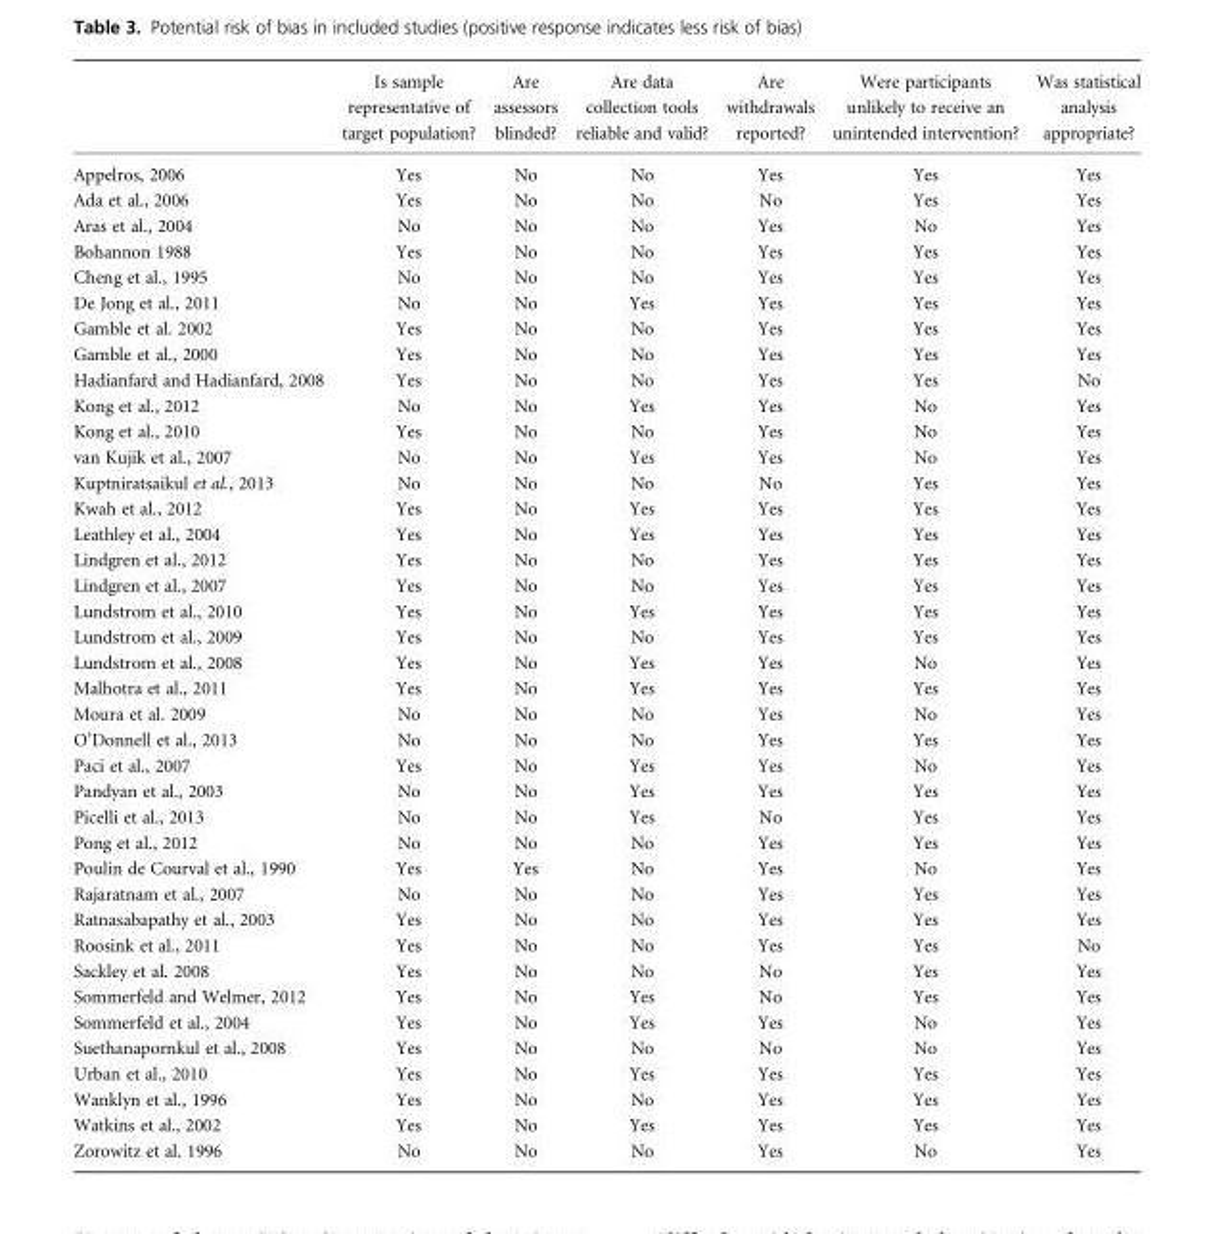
<table><thead><tr><td></td><td>Is sample representative of target population?</td><td>Are assessors blinded?</td><td>Are data collection tools reliable and valid?</td><td>Are withdrawals reported?</td><td>Were participants unlikely to receive an unintended intervention?</td><td>Was statistical analysis appropriate?</td></tr></thead><tbody><tr><td>Appelros, 2006</td><td>Yes</td><td>No</td><td>No</td><td>Yes</td><td>Yes</td><td>Yes</td></tr><tr><td>Ada et al., 2006</td><td>Yes</td><td>No</td><td>No</td><td>No</td><td>Yes</td><td>Yes</td></tr><tr><td>Aras et al., 2004</td><td>No</td><td>No</td><td>No</td><td>Yes</td><td>No</td><td>Yes</td></tr><tr><td>Bohannon 1988</td><td>Yes</td><td>No</td><td>No</td><td>Yes</td><td>Yes</td><td>Yes</td></tr><tr><td>Cheng et al., 1995</td><td>No</td><td>No</td><td>No</td><td>Yes</td><td>Yes</td><td>Yes</td></tr><tr><td>De Jong et al., 2011</td><td>No</td><td>No</td><td>Yes</td><td>Yes</td><td>Yes</td><td>Yes</td></tr><tr><td>Gamble et al. 2002</td><td>Yes</td><td>No</td><td>No</td><td>Yes</td><td>Yes</td><td>Yes</td></tr><tr><td>Gamble et al., 2000</td><td>Yes</td><td>No</td><td>No</td><td>Yes</td><td>Yes</td><td>Yes</td></tr><tr><td>Hadianfard and Hadianfard, 2008</td><td>Yes</td><td>No</td><td>No</td><td>Yes</td><td>Yes</td><td>No</td></tr><tr><td>Kong et al., 2012</td><td>No</td><td>No</td><td>Yes</td><td>Yes</td><td>No</td><td>Yes</td></tr><tr><td>Kong et al., 2010</td><td>Yes</td><td>No</td><td>No</td><td>Yes</td><td>No</td><td>Yes</td></tr><tr><td>van Kujik et al., 2007</td><td>No</td><td>No</td><td>Yes</td><td>Yes</td><td>No</td><td>Yes</td></tr><tr><td>Kuptniratsaikul et al., 2013</td><td>No</td><td>No</td><td>No</td><td>No</td><td>Yes</td><td>Yes</td></tr><tr><td>Kwah et al., 2012</td><td>Yes</td><td>No</td><td>Yes</td><td>Yes</td><td>Yes</td><td>Yes</td></tr><tr><td>Leathley et al., 2004</td><td>Yes</td><td>No</td><td>Yes</td><td>Yes</td><td>Yes</td><td>Yes</td></tr><tr><td>Lindgren et al., 2012</td><td>Yes</td><td>No</td><td>No</td><td>Yes</td><td>Yes</td><td>Yes</td></tr><tr><td>Lindgren et al., 2007</td><td>Yes</td><td>No</td><td>No</td><td>Yes</td><td>Yes</td><td>Yes</td></tr><tr><td>Lundstrom et al., 2010</td><td>Yes</td><td>No</td><td>Yes</td><td>Yes</td><td>Yes</td><td>Yes</td></tr><tr><td>Lundstrom et al., 2009</td><td>Yes</td><td>No</td><td>No</td><td>Yes</td><td>Yes</td><td>Yes</td></tr><tr><td>Lundstrom et al., 2008</td><td>Yes</td><td>No</td><td>Yes</td><td>Yes</td><td>No</td><td>Yes</td></tr><tr><td>Malhotra et al., 2011</td><td>Yes</td><td>No</td><td>Yes</td><td>Yes</td><td>Yes</td><td>Yes</td></tr><tr><td>Moura et al. 2009</td><td>No</td><td>No</td><td>No</td><td>Yes</td><td>No</td><td>Yes</td></tr><tr><td>O’Donnell et al., 2013</td><td>No</td><td>No</td><td>No</td><td>Yes</td><td>Yes</td><td>Yes</td></tr><tr><td>Paci et al., 2007</td><td>Yes</td><td>No</td><td>Yes</td><td>Yes</td><td>No</td><td>Yes</td></tr><tr><td>Pandyan et al., 2003</td><td>No</td><td>No</td><td>Yes</td><td>Yes</td><td>Yes</td><td>Yes</td></tr><tr><td>Picelli et al., 2013</td><td>No</td><td>No</td><td>Yes</td><td>No</td><td>Yes</td><td>Yes</td></tr><tr><td>Pong et al., 2012</td><td>No</td><td>No</td><td>No</td><td>Yes</td><td>Yes</td><td>Yes</td></tr><tr><td>Poulin de Courval et al., 1990</td><td>Yes</td><td>Yes</td><td>No</td><td>Yes</td><td>No</td><td>Yes</td></tr><tr><td>Rajaratnam et al., 2007</td><td>No</td><td>No</td><td>No</td><td>Yes</td><td>Yes</td><td>Yes</td></tr><tr><td>Ratnasabapathy et al., 2003</td><td>Yes</td><td>No</td><td>No</td><td>Yes</td><td>Yes</td><td>Yes</td></tr><tr><td>Roosink et al., 2011</td><td>Yes</td><td>No</td><td>No</td><td>Yes</td><td>Yes</td><td>No</td></tr><tr><td>Sackley et al. 2008</td><td>Yes</td><td>No</td><td>No</td><td>No</td><td>Yes</td><td>Yes</td></tr><tr><td>Sommerfeld and Welmer, 2012</td><td>Yes</td><td>No</td><td>Yes</td><td>No</td><td>Yes</td><td>Yes</td></tr><tr><td>Sommerfeld et al., 2004</td><td>Yes</td><td>No</td><td>Yes</td><td>Yes</td><td>No</td><td>Yes</td></tr><tr><td>Suethanapornkul et al., 2008</td><td>Yes</td><td>No</td><td>No</td><td>No</td><td>No</td><td>Yes</td></tr><tr><td>Urban et al., 2010</td><td>Yes</td><td>No</td><td>Yes</td><td>Yes</td><td>Yes</td><td>Yes</td></tr><tr><td>Wanklyn et al., 1996</td><td>Yes</td><td>No</td><td>No</td><td>Yes</td><td>Yes</td><td>Yes</td></tr><tr><td>Watkins et al., 2002</td><td>Yes</td><td>No</td><td>Yes</td><td>Yes</td><td>Yes</td><td>Yes</td></tr><tr><td>Zorowitz et al. 1996</td><td>No</td><td>No</td><td>No</td><td>Yes</td><td>No</td><td>Yes</td></tr></tbody></table>